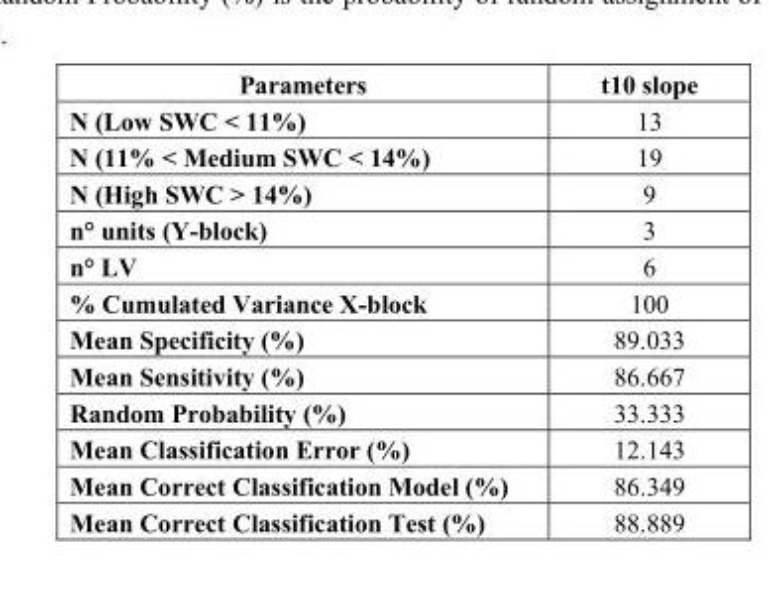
<table><thead><tr><td>Parameters</td><td>t10 slope</td></tr></thead><tbody><tr><td>N (Low SWC &lt; 11%)</td><td>13</td></tr><tr><td>N (11% &lt; Medium SWC &lt; 14%)</td><td>19</td></tr><tr><td>N (High SWC &gt; 14%)</td><td>9</td></tr><tr><td>n° units (Y-block)</td><td>3</td></tr><tr><td>n° LV</td><td>6</td></tr><tr><td>% Cumulated Variance X-block</td><td>100</td></tr><tr><td>Mean Specificity (%)</td><td>89.033</td></tr><tr><td>Mean Sensitivity (%)</td><td>86.667</td></tr><tr><td>Random Probability (%)</td><td>33.333</td></tr><tr><td>Mean Classification Error (%)</td><td>12.143</td></tr><tr><td>Mean Correct Classification Model (%)</td><td>86.349</td></tr><tr><td>Mean Correct Classification Test (%)</td><td>88.889</td></tr></tbody></table>